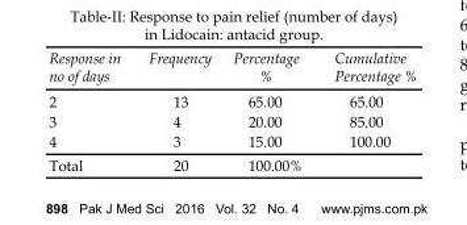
<table><thead><tr><td>Response in no of days</td><td>Frequency</td><td>Percentage %</td><td>Cumulative Percentage %</td></tr></thead><tbody><tr><td>2</td><td>13</td><td>65.00</td><td>65.00</td></tr><tr><td>3</td><td>4</td><td>20.00</td><td>85.00</td></tr><tr><td>4</td><td>3</td><td>15.00</td><td>100.00</td></tr><tr><td>Total</td><td>20</td><td>100.00%</td><td></td></tr></tbody></table>